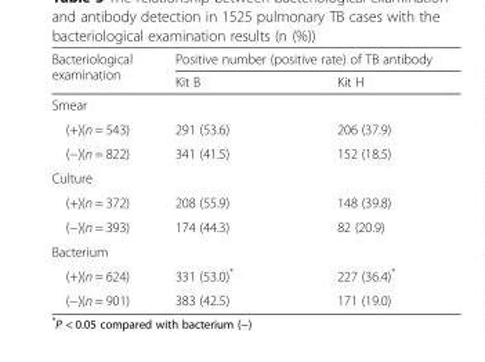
<table><thead><tr><td rowspan="2">Bacteriological examination</td><td colspan="2">Positive number (positive rate) of TB antibody</td></tr><tr><td>Kit B</td><td>Kit H</td></tr></thead><tbody><tr><td colspan="3">Smear</td></tr><tr><td>(+)(n = 543)</td><td>291 (53.6)</td><td>206 (37.9)</td></tr><tr><td>(−)(n = 822)</td><td>341 (41.5)</td><td>152 (18.5)</td></tr><tr><td colspan="3">Culture</td></tr><tr><td>(+)(n = 372)</td><td>208 (55.9)</td><td>148 (39.8)</td></tr><tr><td>(−)(n = 393)</td><td>174 (44.3)</td><td>82 (20.9)</td></tr><tr><td colspan="3">Bacterium</td></tr><tr><td>(+)(n = 624)</td><td>331 (53.0)*</td><td>227 (36.4)*</td></tr><tr><td>(−)(n = 901)</td><td>383 (42.5)</td><td>171 (19.0)</td></tr></tbody></table>